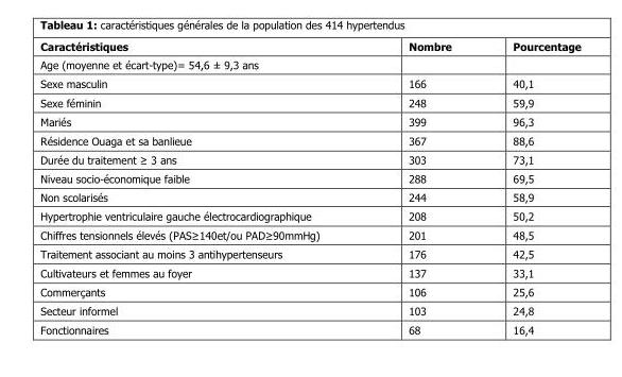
<table><thead><tr><td>Caractéristiques</td><td>Nombre</td><td>Pourcentage</td></tr></thead><tbody><tr><td colspan="3">Age (moyenne et écart-type)= 54,6 ± 9,3 ans</td></tr><tr><td>Sexe masculin</td><td>166</td><td>40,1</td></tr><tr><td>Sexe féminin</td><td>248</td><td>59,9</td></tr><tr><td>Mariés</td><td>399</td><td>96,3</td></tr><tr><td>Résidence Ouaga et sa banlieue</td><td>367</td><td>88,6</td></tr><tr><td>Durée du traitement ≥ 3 ans</td><td>303</td><td>73,1</td></tr><tr><td>Niveau socio-économique faible</td><td>288</td><td>69,5</td></tr><tr><td>Non scolarisés</td><td>244</td><td>58,9</td></tr><tr><td>Hypertrophie ventriculaire gauche électrocardiographique</td><td>208</td><td>50,2</td></tr><tr><td>Chiffres tensionnels élevés (PAS≥140et/ou PAD≥90mmHg)</td><td>201</td><td>48,5</td></tr><tr><td>Traitement associant au moins 3 antihypertenseurs</td><td>176</td><td>42,5</td></tr><tr><td>Cultivateurs et femmes au foyer</td><td>137</td><td>33,1</td></tr><tr><td>Commerçants</td><td>106</td><td>25,6</td></tr><tr><td>Secteur informel</td><td>103</td><td>24,8</td></tr><tr><td>Fonctionnaires</td><td>68</td><td>16,4</td></tr></tbody></table>